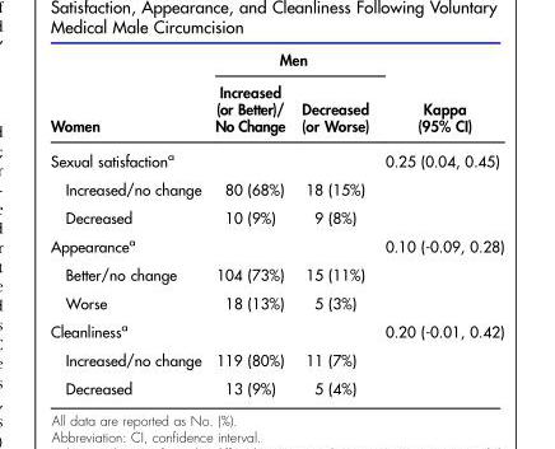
<table><thead><tr><td rowspan="2">Women</td><td colspan="2">Men</td><td rowspan="2">Kappa (95% CI)</td></tr><tr><td>Increased (or Better)/ No Change</td><td>Decreased (or Worse)</td></tr></thead><tbody><tr><td>Sexual satisfaction<sup>a</sup></td><td></td><td></td><td>0.25 (0.04, 0.45)</td></tr><tr><td>Increased/no change</td><td>80 (68%)</td><td>18 (15%)</td><td></td></tr><tr><td>Decreased</td><td>10 (9%)</td><td>9 (8%)</td><td></td></tr><tr><td>Appearance<sup>a</sup></td><td></td><td></td><td>0.10 (-0.09, 0.28)</td></tr><tr><td>Better/no change</td><td>104 (73%)</td><td>15 (11%)</td><td></td></tr><tr><td>Worse</td><td>18 (13%)</td><td>5 (3%)</td><td></td></tr><tr><td>Cleanliness<sup>a</sup></td><td></td><td></td><td>0.20 (-0.01, 0.42)</td></tr><tr><td>Increased/no change</td><td>119 (80%)</td><td>11 (7%)</td><td></td></tr><tr><td>Decreased</td><td>13 (9%)</td><td>5 (4%)</td><td></td></tr></tbody></table>